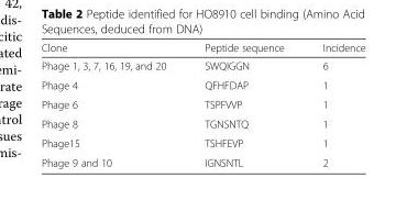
<table><thead><tr><td>Clone</td><td>Peptide sequence</td><td>Incidence</td></tr></thead><tbody><tr><td>Phage 1, 3, 7, 16, 19, and 20</td><td>SWQIGGN</td><td>6</td></tr><tr><td>Phage 4</td><td>QFHFDAP</td><td>1</td></tr><tr><td>Phage 6</td><td>TSPFVVP</td><td>1</td></tr><tr><td>Phage 8</td><td>TGNSNTQ</td><td>1</td></tr><tr><td>Phage15</td><td>TSHFEVP</td><td>1</td></tr><tr><td>Phage 9 and 10</td><td>IGNSNTL</td><td>2</td></tr></tbody></table>